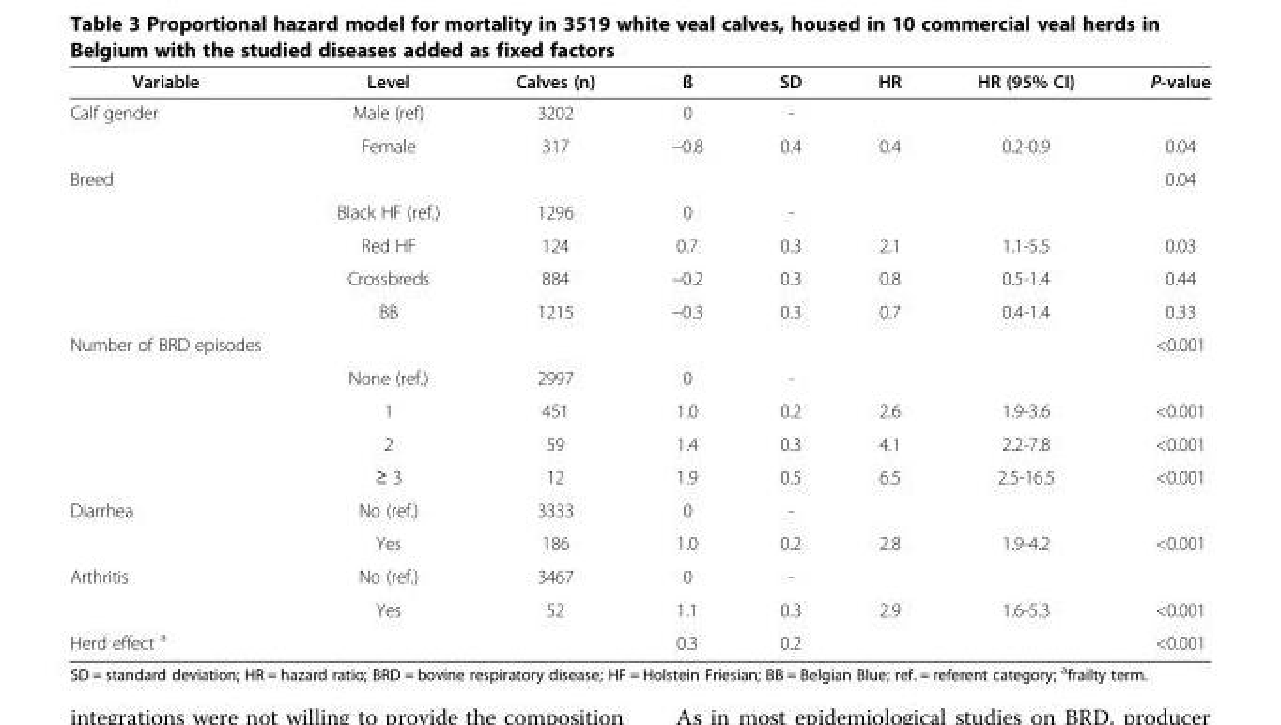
<table><thead><tr><td>Variable</td><td>Level</td><td>Calves (n)</td><td>ß</td><td>SD</td><td>HR</td><td>HR (95% CI)</td><td>P-value</td></tr></thead><tbody><tr><td rowspan="2">Calf gender</td><td>Male (ref)</td><td>3202</td><td>0</td><td>-</td><td></td><td></td><td></td></tr><tr><td>Female</td><td>317</td><td>−0.8</td><td>0.4</td><td>0.4</td><td>0.2-0.9</td><td>0.04</td></tr><tr><td rowspan="5">Breed</td><td></td><td></td><td></td><td></td><td></td><td></td><td>0.04</td></tr><tr><td>Black HF (ref.)</td><td>1296</td><td>0</td><td>-</td><td></td><td></td><td></td></tr><tr><td>Red HF</td><td>124</td><td>0.7</td><td>0.3</td><td>2.1</td><td>1.1-5.5</td><td>0.03</td></tr><tr><td>Crossbreds</td><td>884</td><td>−0.2</td><td>0.3</td><td>0.8</td><td>0.5-1.4</td><td>0.44</td></tr><tr><td>BB</td><td>1215</td><td>−0.3</td><td>0.3</td><td>0.7</td><td>0.4-1.4</td><td>0.33</td></tr><tr><td rowspan="5">Number of BRD episodes</td><td></td><td></td><td></td><td></td><td></td><td></td><td>&lt;0.001</td></tr><tr><td>None (ref.)</td><td>2997</td><td>0</td><td>-</td><td></td><td></td><td></td></tr><tr><td>1</td><td>451</td><td>1.0</td><td>0.2</td><td>2.6</td><td>1.9-3.6</td><td>&lt;0.001</td></tr><tr><td>2</td><td>59</td><td>1.4</td><td>0.3</td><td>4.1</td><td>2.2-7.8</td><td>&lt;0.001</td></tr><tr><td>≥ 3</td><td>12</td><td>1.9</td><td>0.5</td><td>6.5</td><td>2.5-16.5</td><td>&lt;0.001</td></tr><tr><td rowspan="2">Diarrhea</td><td>No (ref.)</td><td>3333</td><td>0</td><td>-</td><td></td><td></td><td></td></tr><tr><td>Yes</td><td>186</td><td>1.0</td><td>0.2</td><td>2.8</td><td>1.9-4.2</td><td>&lt;0.001</td></tr><tr><td rowspan="2">Arthritis</td><td>No (ref.)</td><td>3467</td><td>0</td><td>-</td><td></td><td></td><td></td></tr><tr><td>Yes</td><td>52</td><td>1.1</td><td>0.3</td><td>2.9</td><td>1.6-5.3</td><td>&lt;0.001</td></tr><tr><td>Herd effect <sup>a</sup></td><td></td><td></td><td>0.3</td><td>0.2</td><td></td><td></td><td>&lt;0.001</td></tr></tbody></table>